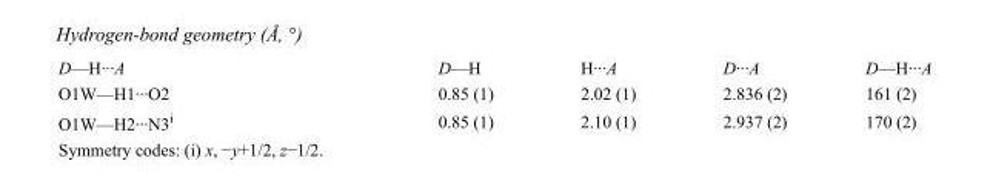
<table><tbody><tr><td>D—H···A</td><td>D—H</td><td>H···A</td><td>D···A</td><td>D—H···A</td></tr><tr><td>O1W—H1···O2</td><td>0.85 (1)</td><td>2.02 (1)</td><td>2.836 (2)</td><td>161 (2)</td></tr><tr><td>O1W—H2···N3<sup>i</sup></td><td>0.85 (1)</td><td>2.10 (1)</td><td>2.937 (2)</td><td>170 (2)</td></tr></tbody></table>